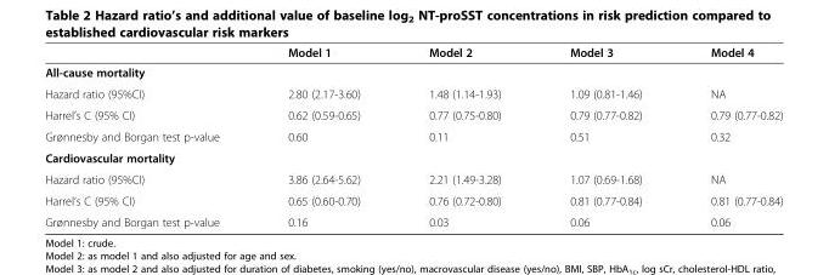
<table><thead><tr><td></td><td>Model 1</td><td>Model 2</td><td>Model 3</td><td>Model 4</td></tr></thead><tbody><tr><td colspan="5">All-cause mortality</td></tr><tr><td>Hazard ratio (95%CI)</td><td>2.80 (2.17-3.60)</td><td>1.48 (1.14-1.93)</td><td>1.09 (0.81-1.46)</td><td>NA</td></tr><tr><td>Harrel’s C (95% CI)</td><td>0.62 (0.59-0.65)</td><td>0.77 (0.75-0.80)</td><td>0.79 (0.77-0.82)</td><td>0.79 (0.77-0.82)</td></tr><tr><td>Grønnesby and Borgan test p-value</td><td>0.60</td><td>0.11</td><td>0.51</td><td>0.32</td></tr><tr><td colspan="5">Cardiovascular mortality</td></tr><tr><td>Hazard ratio (95%CI)</td><td>3.86 (2.64-5.62)</td><td>2.21 (1.49-3.28)</td><td>1.07 (0.69-1.68)</td><td>NA</td></tr><tr><td>Harrel’s C (95% CI)</td><td>0.65 (0.60-0.70)</td><td>0.76 (0.72-0.80)</td><td>0.81 (0.77-0.84)</td><td>0.81 (0.77-0.84)</td></tr><tr><td>Grønnesby and Borgan test p-value</td><td>0.16</td><td>0.03</td><td>0.06</td><td>0.06</td></tr></tbody></table>